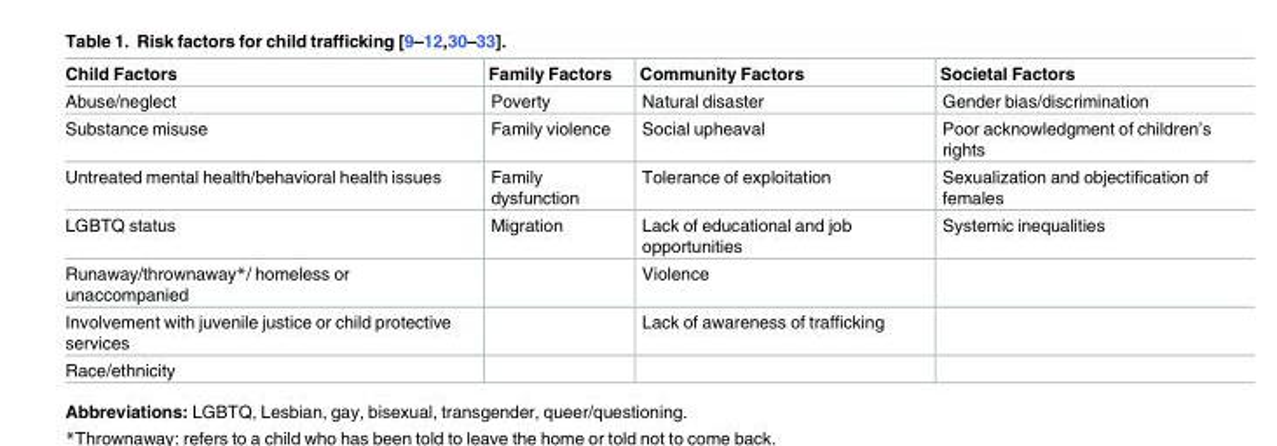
<table><thead><tr><td>Child Factors</td><td>Family Factors</td><td>Community Factors</td><td>Societal Factors</td></tr></thead><tbody><tr><td>Abuse/neglect</td><td>Poverty</td><td>Natural disaster</td><td>Gender bias/discrimination</td></tr><tr><td>Substance misuse</td><td>Family violence</td><td>Social upheaval</td><td>Poor acknowledgment of children’s rights</td></tr><tr><td>Untreated mental health/behavioral health issues</td><td>Family dysfunction</td><td>Tolerance of exploitation</td><td>Sexualization and objectification of females</td></tr><tr><td>LGBTQ status</td><td>Migration</td><td>Lack of educational and job opportunities</td><td>Systemic inequalities</td></tr><tr><td>Runaway/thrownaway*/ homeless or unaccompanied</td><td></td><td>Violence</td><td></td></tr><tr><td>Involvement with juvenile justice or child protective services</td><td></td><td>Lack of awareness of trafficking</td><td></td></tr><tr><td>Race/ethnicity</td><td></td><td></td><td></td></tr></tbody></table>